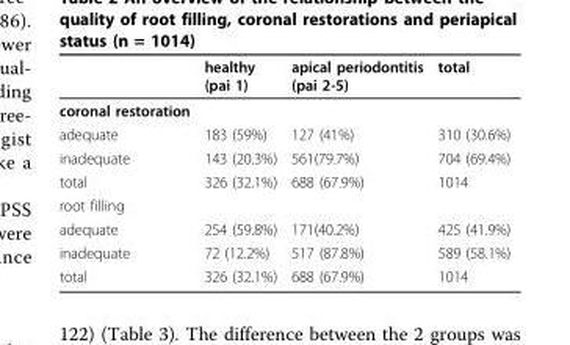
<table><thead><tr><td></td><td>healthy (pai 1)</td><td>apical periodontitis (pai 2-5)</td><td>total</td></tr></thead><tbody><tr><td colspan="4">coronal restoration</td></tr><tr><td>adequate</td><td>183 (59%)</td><td>127 (41%)</td><td>310 (30.6%)</td></tr><tr><td>inadequate</td><td>143 (20.3%)</td><td>561(79.7%)</td><td>704 (69.4%)</td></tr><tr><td>total</td><td>326 (32.1%)</td><td>688 (67.9%)</td><td>1014</td></tr><tr><td colspan="4">root filling</td></tr><tr><td>adequate</td><td>254 (59.8%)</td><td>171(40.2%)</td><td>425 (41.9%)</td></tr><tr><td>inadequate</td><td>72 (12.2%)</td><td>517 (87.8%)</td><td>589 (58.1%)</td></tr><tr><td>total</td><td>326 (32.1%)</td><td>688 (67.9%)</td><td>1014</td></tr></tbody></table>